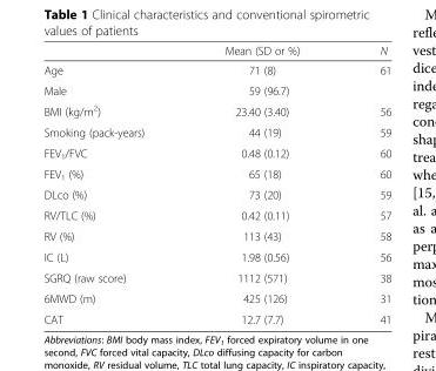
<table><thead><tr><td></td><td>Mean (SD or %)</td><td>N</td></tr></thead><tbody><tr><td>Age</td><td>71 (8)</td><td>61</td></tr><tr><td>Male</td><td>59 (96.7)</td><td></td></tr><tr><td>BMI (kg/m<sup>2</sup>)</td><td>23.40 (3.40)</td><td>56</td></tr><tr><td>Smoking (pack-years)</td><td>44 (19)</td><td>59</td></tr><tr><td>FEV<sub>1</sub>/FVC</td><td>0.48 (0.12)</td><td>60</td></tr><tr><td>FEV<sub>1</sub> (%)</td><td>65 (18)</td><td>60</td></tr><tr><td>DLco (%)</td><td>73 (20)</td><td>59</td></tr><tr><td>RV/TLC (%)</td><td>0.42 (0.11)</td><td>57</td></tr><tr><td>RV (%)</td><td>113 (43)</td><td>58</td></tr><tr><td>IC (L)</td><td>1.98 (0.56)</td><td>56</td></tr><tr><td>SGRQ (raw score)</td><td>1112 (571)</td><td>38</td></tr><tr><td>6MWD (m)</td><td>425 (126)</td><td>31</td></tr><tr><td>CAT</td><td>12.7 (7.7)</td><td>41</td></tr></tbody></table>